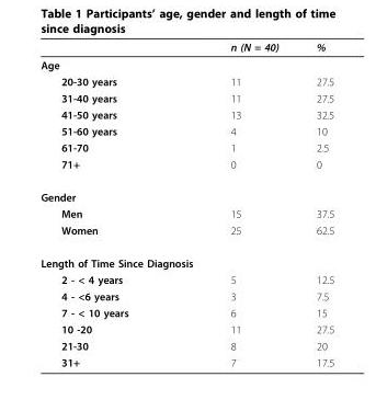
<table><thead><tr><td></td><td>n (N = 40)</td><td>%</td></tr></thead><tbody><tr><td colspan="3">Age</td></tr><tr><td>20-30 years</td><td>11</td><td>27.5</td></tr><tr><td>31-40 years</td><td>11</td><td>27.5</td></tr><tr><td>41-50 years</td><td>13</td><td>32.5</td></tr><tr><td>51-60 years</td><td>4</td><td>10</td></tr><tr><td>61-70</td><td>1</td><td>2.5</td></tr><tr><td>71+</td><td>0</td><td>0</td></tr><tr><td colspan="3">Gender</td></tr><tr><td>Men</td><td>15</td><td>37.5</td></tr><tr><td>Women</td><td>25</td><td>62.5</td></tr><tr><td colspan="3">Length of Time Since Diagnosis</td></tr><tr><td>2 - &lt; 4 years</td><td>5</td><td>12.5</td></tr><tr><td>4 - &lt;6 years</td><td>3</td><td>7.5</td></tr><tr><td>7 - &lt; 10 years</td><td>6</td><td>15</td></tr><tr><td>10 -20</td><td>11</td><td>27.5</td></tr><tr><td>21-30</td><td>8</td><td>20</td></tr><tr><td>31+</td><td>7</td><td>17.5</td></tr></tbody></table>